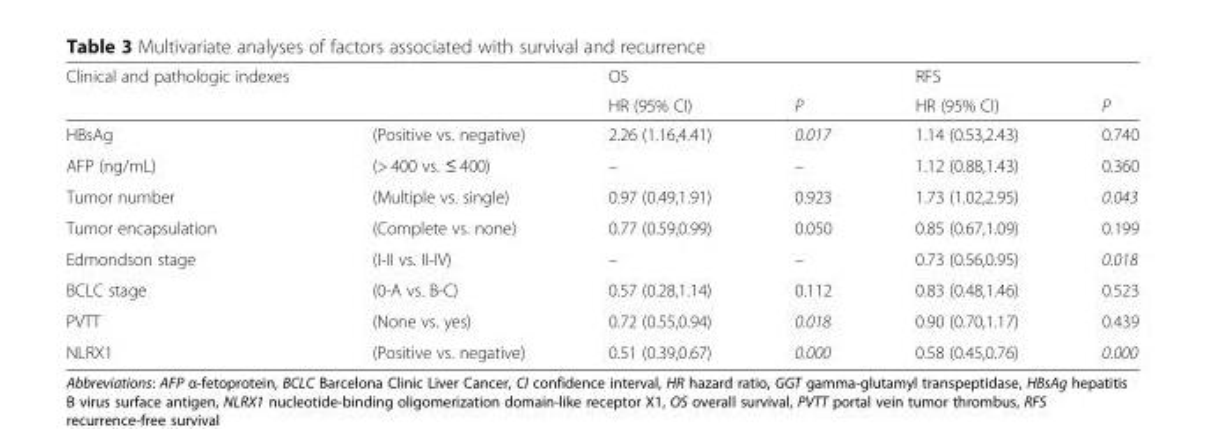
<table><thead><tr><td rowspan="2">Clinical and pathologic indexes</td><td rowspan="2"></td><td rowspan="2">OS HR (95% CI)</td><td rowspan="2">P</td><td rowspan="2">RFS HR (95% CI)</td><td rowspan="2">P</td></tr><tr></tr></thead><tbody><tr><td>HBsAg</td><td>(Positive vs. negative)</td><td>2.26 (1.16,4.41)</td><td>0.017</td><td>1.14 (0.53,2.43)</td><td>0.740</td></tr><tr><td>AFP (ng/mL)</td><td>(&gt; 400 vs. ≤ 400)</td><td>–</td><td>–</td><td>1.12 (0.88,1.43)</td><td>0.360</td></tr><tr><td>Tumor number</td><td>(Multiple vs. single)</td><td>0.97 (0.49,1.91)</td><td>0.923</td><td>1.73 (1.02,2.95)</td><td>0.043</td></tr><tr><td>Tumor encapsulation</td><td>(Complete vs. none)</td><td>0.77 (0.59,0.99)</td><td>0.050</td><td>0.85 (0.67,1.09)</td><td>0.199</td></tr><tr><td>Edmondson stage</td><td>(I-II vs. II-IV)</td><td>–</td><td>–</td><td>0.73 (0.56,0.95)</td><td>0.018</td></tr><tr><td>BCLC stage</td><td>(0-A vs. B-C)</td><td>0.57 (0.28,1.14)</td><td>0.112</td><td>0.83 (0.48,1.46)</td><td>0.523</td></tr><tr><td>PVTT</td><td>(None vs. yes)</td><td>0.72 (0.55,0.94)</td><td>0.018</td><td>0.90 (0.70,1.17)</td><td>0.439</td></tr><tr><td>NLRX1</td><td>(Positive vs. negative)</td><td>0.51 (0.39,0.67)</td><td>0.000</td><td>0.58 (0.45,0.76)</td><td>0.000</td></tr></tbody></table>